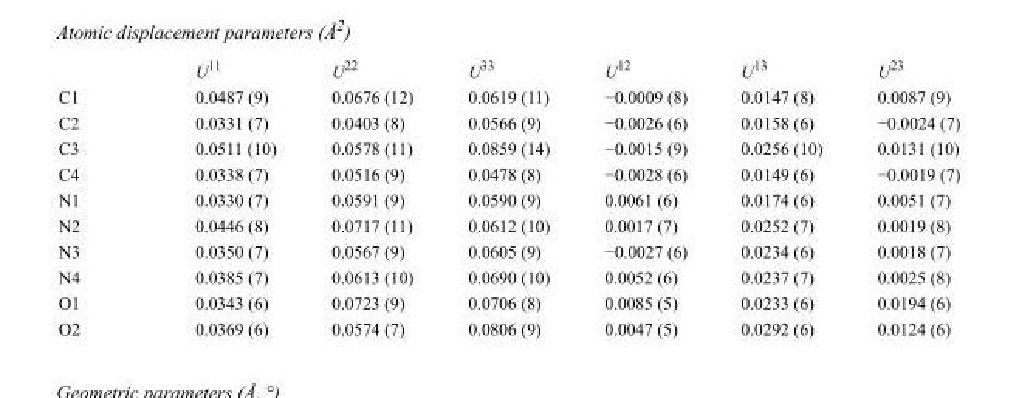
<table><thead><tr><td></td><td>U<sup>11</sup></td><td>U<sup>22</sup></td><td>U<sup>33</sup></td><td>U<sup>12</sup></td><td>U<sup>13</sup></td><td>U<sup>23</sup></td></tr></thead><tbody><tr><td>C1</td><td>0.0487 (9)</td><td>0.0676 (12)</td><td>0.0619 (11)</td><td>−0.0009 (8)</td><td>0.0147 (8)</td><td>0.0087 (9)</td></tr><tr><td>C2</td><td>0.0331 (7)</td><td>0.0403 (8)</td><td>0.0566 (9)</td><td>−0.0026 (6)</td><td>0.0158 (6)</td><td>−0.0024 (7)</td></tr><tr><td>C3</td><td>0.0511 (10)</td><td>0.0578 (11)</td><td>0.0859 (14)</td><td>−0.0015 (9)</td><td>0.0256 (10)</td><td>0.0131 (10)</td></tr><tr><td>C4</td><td>0.0338 (7)</td><td>0.0516 (9)</td><td>0.0478 (8)</td><td>−0.0028 (6)</td><td>0.0149 (6)</td><td>−0.0019 (7)</td></tr><tr><td>N1</td><td>0.0330 (7)</td><td>0.0591 (9)</td><td>0.0590 (9)</td><td>0.0061 (6)</td><td>0.0174 (6)</td><td>0.0051 (7)</td></tr><tr><td>N2</td><td>0.0446 (8)</td><td>0.0717 (11)</td><td>0.0612 (10)</td><td>0.0017 (7)</td><td>0.0252 (7)</td><td>0.0019 (8)</td></tr><tr><td>N3</td><td>0.0350 (7)</td><td>0.0567 (9)</td><td>0.0605 (9)</td><td>−0.0027 (6)</td><td>0.0234 (6)</td><td>0.0018 (7)</td></tr><tr><td>N4</td><td>0.0385 (7)</td><td>0.0613 (10)</td><td>0.0690 (10)</td><td>0.0052 (6)</td><td>0.0237 (7)</td><td>0.0025 (8)</td></tr><tr><td>O1</td><td>0.0343 (6)</td><td>0.0723 (9)</td><td>0.0706 (8)</td><td>0.0085 (5)</td><td>0.0233 (6)</td><td>0.0194 (6)</td></tr><tr><td>O2</td><td>0.0369 (6)</td><td>0.0574 (7)</td><td>0.0806 (9)</td><td>0.0047 (5)</td><td>0.0292 (6)</td><td>0.0124 (6)</td></tr></tbody></table>